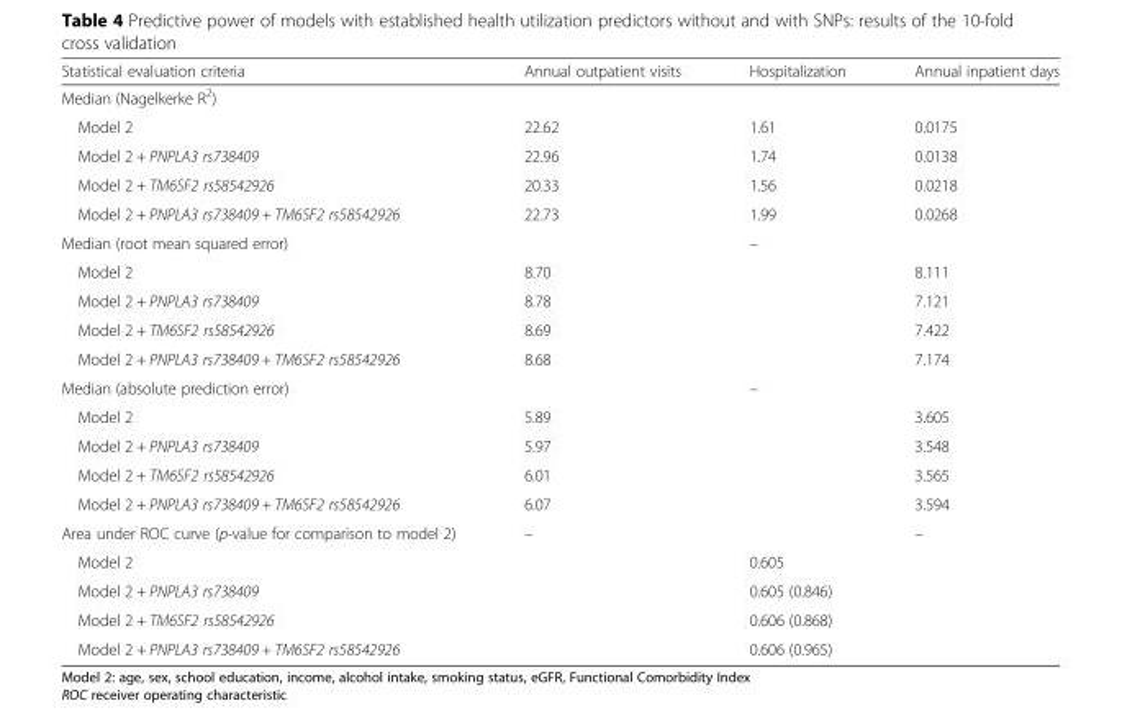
<table><thead><tr><td>Statistical evaluation criteria</td><td>Annual outpatient visits</td><td>Hospitalization</td><td>Annual inpatient days</td></tr></thead><tbody><tr><td colspan="4">Median (Nagelkerke R<sup>2</sup>)</td></tr><tr><td>Model 2</td><td>22.62</td><td>1.61</td><td>0.0175</td></tr><tr><td>Model 2 + PNPLA3 rs738409</td><td>22.96</td><td>1.74</td><td>0.0138</td></tr><tr><td>Model 2 + TM6SF2 rs58542926</td><td>20.33</td><td>1.56</td><td>0.0218</td></tr><tr><td>Model 2 + PNPLA3 rs738409 + TM6SF2 rs58542926</td><td>22.73</td><td>1.99</td><td>0.0268</td></tr><tr><td>Median (root mean squared error)</td><td></td><td>–</td><td></td></tr><tr><td>Model 2</td><td>8.70</td><td></td><td>8.111</td></tr><tr><td>Model 2 + PNPLA3 rs738409</td><td>8.78</td><td></td><td>7.121</td></tr><tr><td>Model 2 + TM6SF2 rs58542926</td><td>8.69</td><td></td><td>7.422</td></tr><tr><td>Model 2 + PNPLA3 rs738409 + TM6SF2 rs58542926</td><td>8.68</td><td></td><td>7.174</td></tr><tr><td>Median (absolute prediction error)</td><td></td><td>–</td><td></td></tr><tr><td>Model 2</td><td>5.89</td><td></td><td>3.605</td></tr><tr><td>Model 2 + PNPLA3 rs738409</td><td>5.97</td><td></td><td>3.548</td></tr><tr><td>Model 2 + TM6SF2 rs58542926</td><td>6.01</td><td></td><td>3.565</td></tr><tr><td>Model 2 + PNPLA3 rs738409 + TM6SF2 rs58542926</td><td>6.07</td><td></td><td>3.594</td></tr><tr><td>Area under ROC curve (p-value for comparison to model 2)</td><td>–</td><td></td><td>–</td></tr><tr><td>Model 2</td><td></td><td>0.605</td><td></td></tr><tr><td>Model 2 + PNPLA3 rs738409</td><td></td><td>0.605 (0.846)</td><td></td></tr><tr><td>Model 2 + TM6SF2 rs58542926</td><td></td><td>0.606 (0.868)</td><td></td></tr><tr><td>Model 2 + PNPLA3 rs738409 + TM6SF2 rs58542926</td><td></td><td>0.606 (0.965)</td><td></td></tr></tbody></table>